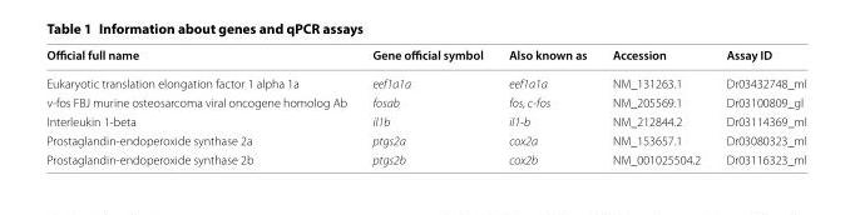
<table><thead><tr><td>Official full name</td><td>Gene official symbol</td><td>Also known as</td><td>Accession</td><td>Assay ID</td></tr></thead><tbody><tr><td>Eukaryotic translation elongation factor 1 alpha 1a</td><td>eef1a1a</td><td>eef1a1a</td><td>NM_131263.1</td><td>Dr03432748_ml</td></tr><tr><td>v‑fos FBJ murine osteosarcoma viral oncogene homolog Ab</td><td>fosab</td><td>fos, c-fos</td><td>NM_205569.1</td><td>Dr03100809_gl</td></tr><tr><td>Interleukin 1‑beta</td><td>il1b</td><td>il1-b</td><td>NM_212844.2</td><td>Dr03114369_ml</td></tr><tr><td>Prostaglandin‑endoperoxide synthase 2a</td><td>ptgs2a</td><td>cox2a</td><td>NM_153657.1</td><td>Dr03080323_ml</td></tr><tr><td>Prostaglandin‑endoperoxide synthase 2b</td><td>ptgs2b</td><td>cox2b</td><td>NM_001025504.2</td><td>Dr03116323_ml</td></tr></tbody></table>